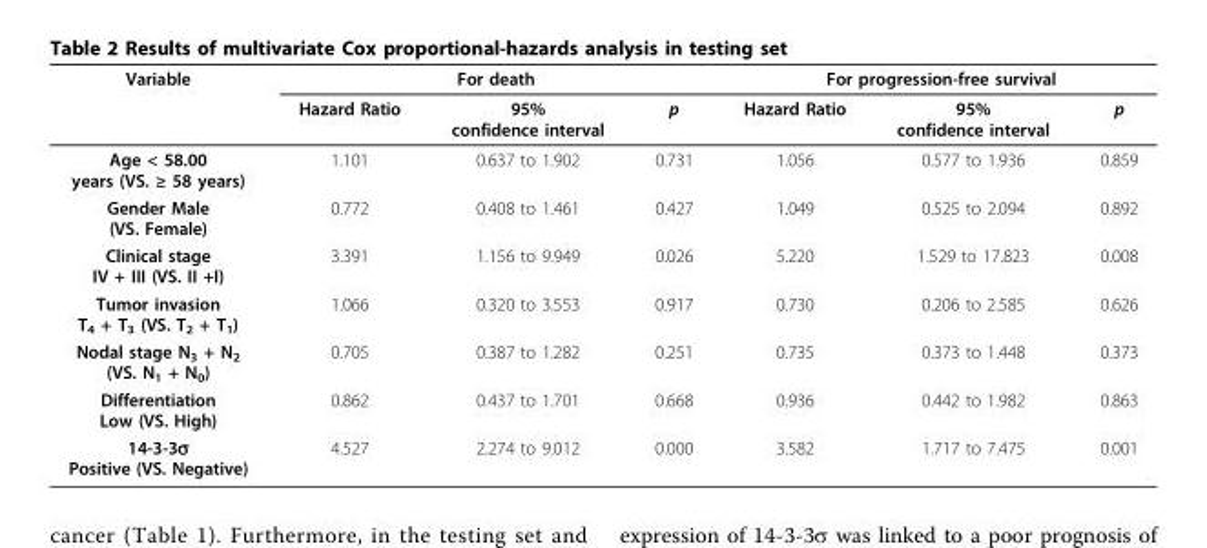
<table><thead><tr><td rowspan="2">Variable</td><td colspan="3">For death</td><td colspan="3">For progression-free survival</td></tr><tr><td>Hazard Ratio</td><td>95% confidence interval</td><td>p</td><td>Hazard Ratio</td><td>95% confidence interval</td><td>p</td></tr></thead><tbody><tr><td>Age &lt; 58.00 years (VS. ≥ 58 years)</td><td>1.101</td><td>0.637 to 1.902</td><td>0.731</td><td>1.056</td><td>0.577 to 1.936</td><td>0.859</td></tr><tr><td>Gender Male (VS. Female)</td><td>0.772</td><td>0.408 to 1.461</td><td>0.427</td><td>1.049</td><td>0.525 to 2.094</td><td>0.892</td></tr><tr><td>Clinical stage IV + III (VS. II +I)</td><td>3.391</td><td>1.156 to 9.949</td><td>0.026</td><td>5.220</td><td>1.529 to 17.823</td><td>0.008</td></tr><tr><td>Tumor invasion T<sub>4</sub> + T<sub>3</sub> (VS. T<sub>2</sub> + T<sub>1</sub>)</td><td>1.066</td><td>0.320 to 3.553</td><td>0.917</td><td>0.730</td><td>0.206 to 2.585</td><td>0.626</td></tr><tr><td>Nodal stage N<sub>3</sub> + N<sub>2</sub> (VS. N<sub>1</sub> + N<sub>0</sub>)</td><td>0.705</td><td>0.387 to 1.282</td><td>0.251</td><td>0.735</td><td>0.373 to 1.448</td><td>0.373</td></tr><tr><td>Differentiation Low (VS. High)</td><td>0.862</td><td>0.437 to 1.701</td><td>0.668</td><td>0.936</td><td>0.442 to 1.982</td><td>0.863</td></tr><tr><td>14-3-3σ Positive (VS. Negative)</td><td>4.527</td><td>2.274 to 9.012</td><td>0.000</td><td>3.582</td><td>1.717 to 7.475</td><td>0.001</td></tr></tbody></table>